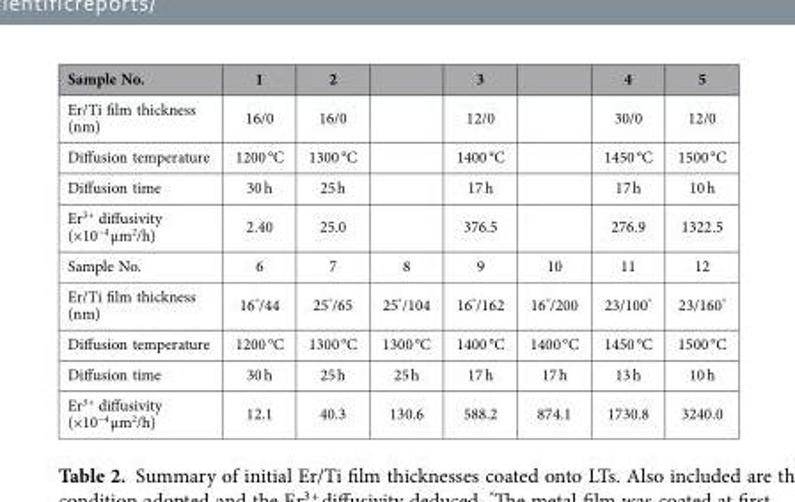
<table><thead><tr><td>Sample No.</td><td>1</td><td>2</td><td></td><td>3</td><td></td><td>4</td><td>5</td></tr></thead><tbody><tr><td>Er/Ti film thickness (nm)</td><td>16/0</td><td>16/0</td><td></td><td>12/0</td><td></td><td>30/0</td><td>12/0</td></tr><tr><td>Diffusion temperature</td><td>1200 °C</td><td>1300 °C</td><td></td><td>1400 °C</td><td></td><td>1450 °C</td><td>1500 °C</td></tr><tr><td>Diffusion time</td><td>30 h</td><td>25 h</td><td></td><td>17 h</td><td></td><td>17 h</td><td>10 h</td></tr><tr><td>Er<sup>3+</sup> diffusivity (×10<sup>−4</sup> μm<sup>2</sup>/h)</td><td>2.40</td><td>25.0</td><td></td><td>376.5</td><td></td><td>276.9</td><td>1322.5</td></tr><tr><td>Sample No.</td><td>6</td><td>7</td><td>8</td><td>9</td><td>10</td><td>11</td><td>12</td></tr><tr><td>Er/Ti film thickness (nm)</td><td>16*/44</td><td>25*/65</td><td>25*/104</td><td>16*/162</td><td>16*/200</td><td>23/100*</td><td>23/160*</td></tr><tr><td>Diffusion temperature</td><td>1200 °C</td><td>1300 °C</td><td>1300 °C</td><td>1400 °C</td><td>1400 °C</td><td>1450 °C</td><td>1500 °C</td></tr><tr><td>Diffusion time</td><td>30 h</td><td>25 h</td><td>25 h</td><td>17 h</td><td>17 h</td><td>13 h</td><td>10 h</td></tr><tr><td>Er<sup>3+</sup> diffusivity (×10<sup>−4</sup> μm<sup>2</sup>/h)</td><td>12.1</td><td>40.3</td><td>130.6</td><td>588.2</td><td>874.1</td><td>1730.8</td><td>3240.0</td></tr></tbody></table>